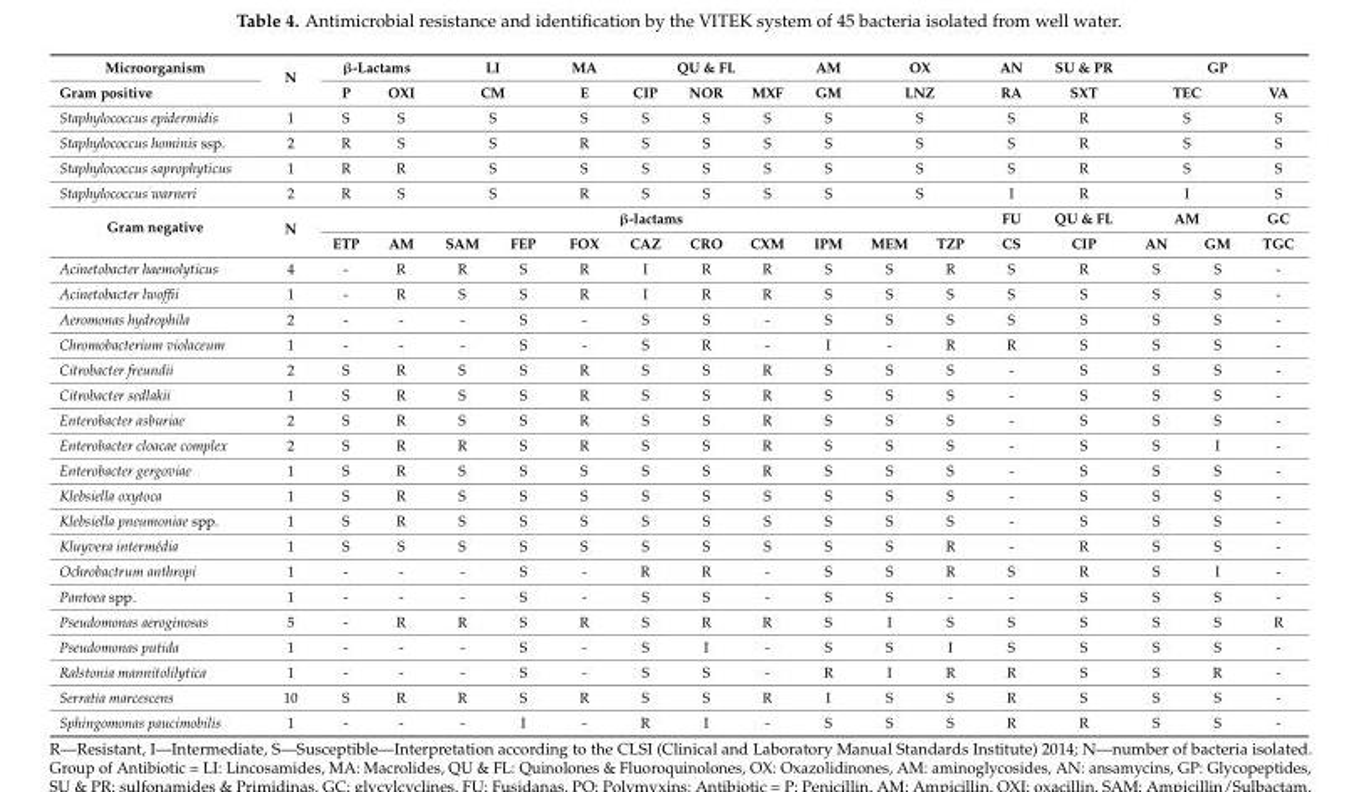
<table><tbody><tr><td>Microorganism</td><td rowspan="2">N</td><td colspan="2">β-Lactams</td><td colspan="2">LI</td><td>MA</td><td colspan="3">QU &amp; FL</td><td>AM</td><td colspan="2">OX</td><td>AN</td><td>SU &amp; PR</td><td colspan="3">GP</td></tr><tr><td>Gram positive</td><td>P</td><td>OXI</td><td colspan="2">CM</td><td>E</td><td>CIP</td><td>NOR</td><td>MXF</td><td>GM</td><td colspan="2">LNZ</td><td>RA</td><td>SXT</td><td colspan="2">TEC</td><td>VA</td></tr><tr><td>Staphylococcus epidermidis</td><td>1</td><td>S</td><td>S</td><td colspan="2">S</td><td>S</td><td>S</td><td>S</td><td>S</td><td>S</td><td colspan="2">S</td><td>S</td><td>R</td><td colspan="2">S</td><td>S</td></tr><tr><td>Staphylococcus hominis ssp.</td><td>2</td><td>R</td><td>S</td><td colspan="2">S</td><td>R</td><td>S</td><td>S</td><td>S</td><td>S</td><td colspan="2">S</td><td>S</td><td>R</td><td colspan="2">S</td><td>S</td></tr><tr><td>Staphylococcus saprophyticus</td><td>1</td><td>R</td><td>R</td><td colspan="2">S</td><td>S</td><td>S</td><td>S</td><td>S</td><td>S</td><td colspan="2">S</td><td>S</td><td>R</td><td colspan="2">S</td><td>S</td></tr><tr><td>Staphylococcus warneri</td><td>2</td><td>R</td><td>S</td><td colspan="2">S</td><td>R</td><td>S</td><td>S</td><td>S</td><td>S</td><td colspan="2">S</td><td>I</td><td>R</td><td colspan="2">I</td><td>S</td></tr><tr><td rowspan="2">Gram negative</td><td rowspan="2">N</td><td colspan="11">β-lactams</td><td>FU</td><td>QU &amp; FL</td><td colspan="2">AM</td><td>GC</td></tr><tr><td>ETP</td><td>AM</td><td>SAM</td><td>FEP</td><td>FOX</td><td>CAZ</td><td>CRO</td><td>CXM</td><td>IPM</td><td>MEM</td><td>TZP</td><td>CS</td><td>CIP</td><td>AN</td><td>GM</td><td>TGC</td></tr><tr><td>Acinetobacter haemolyticus</td><td>4</td><td>-</td><td>R</td><td>R</td><td>S</td><td>R</td><td>I</td><td>R</td><td>R</td><td>S</td><td>S</td><td>R</td><td>S</td><td>R</td><td>S</td><td>S</td><td>-</td></tr><tr><td>Acinetobacter lwoffii</td><td>1</td><td>-</td><td>R</td><td>S</td><td>S</td><td>R</td><td>I</td><td>R</td><td>R</td><td>S</td><td>S</td><td>S</td><td>S</td><td>S</td><td>S</td><td>S</td><td>-</td></tr><tr><td>Aeromonas hydrophila</td><td>2</td><td>-</td><td>-</td><td>-</td><td>S</td><td>-</td><td>S</td><td>S</td><td>-</td><td>S</td><td>S</td><td>S</td><td>S</td><td>S</td><td>S</td><td>S</td><td>-</td></tr><tr><td>Chromobacterium violaceum</td><td>1</td><td>-</td><td>-</td><td>-</td><td>S</td><td>-</td><td>S</td><td>R</td><td>-</td><td>I</td><td>-</td><td>R</td><td>R</td><td>S</td><td>S</td><td>S</td><td>-</td></tr><tr><td>Citrobacter freundii</td><td>2</td><td>S</td><td>R</td><td>S</td><td>S</td><td>R</td><td>S</td><td>S</td><td>R</td><td>S</td><td>S</td><td>S</td><td>-</td><td>S</td><td>S</td><td>S</td><td>-</td></tr><tr><td>Citrobacter sedlakii</td><td>1</td><td>S</td><td>R</td><td>S</td><td>S</td><td>R</td><td>S</td><td>S</td><td>R</td><td>S</td><td>S</td><td>S</td><td>-</td><td>S</td><td>S</td><td>S</td><td>-</td></tr><tr><td>Enterobacter asburiae</td><td>2</td><td>S</td><td>R</td><td>S</td><td>S</td><td>R</td><td>S</td><td>S</td><td>R</td><td>S</td><td>S</td><td>S</td><td>-</td><td>S</td><td>S</td><td>S</td><td>-</td></tr><tr><td>Enterobacter cloacae complex</td><td>2</td><td>S</td><td>R</td><td>R</td><td>S</td><td>R</td><td>S</td><td>S</td><td>R</td><td>S</td><td>S</td><td>S</td><td>-</td><td>S</td><td>S</td><td>I</td><td>-</td></tr><tr><td>Enterobacter gergoviae</td><td>1</td><td>S</td><td>R</td><td>S</td><td>S</td><td>S</td><td>S</td><td>S</td><td>R</td><td>S</td><td>S</td><td>S</td><td>-</td><td>S</td><td>S</td><td>S</td><td>-</td></tr><tr><td>Klebsiella oxytoca</td><td>1</td><td>S</td><td>R</td><td>S</td><td>S</td><td>S</td><td>S</td><td>S</td><td>S</td><td>S</td><td>S</td><td>S</td><td>-</td><td>S</td><td>S</td><td>S</td><td>-</td></tr><tr><td>Klebsiella pneumoniae spp.</td><td>1</td><td>S</td><td>R</td><td>S</td><td>S</td><td>S</td><td>S</td><td>S</td><td>S</td><td>S</td><td>S</td><td>S</td><td>-</td><td>S</td><td>S</td><td>S</td><td>-</td></tr><tr><td>Kluyvera intermédia</td><td>1</td><td>S</td><td>S</td><td>S</td><td>S</td><td>S</td><td>S</td><td>S</td><td>S</td><td>S</td><td>S</td><td>R</td><td>-</td><td>R</td><td>S</td><td>S</td><td>-</td></tr><tr><td>Ochrobactrum anthropi</td><td>1</td><td>-</td><td>-</td><td>-</td><td>S</td><td>-</td><td>R</td><td>R</td><td>-</td><td>S</td><td>S</td><td>R</td><td>S</td><td>R</td><td>S</td><td>I</td><td>-</td></tr><tr><td>Pantoea spp.</td><td>1</td><td>-</td><td>-</td><td>-</td><td>S</td><td>-</td><td>S</td><td>S</td><td>-</td><td>S</td><td>S</td><td>-</td><td>-</td><td>S</td><td>S</td><td>S</td><td>-</td></tr><tr><td>Pseudomonas aeroginosas</td><td>5</td><td>-</td><td>R</td><td>R</td><td>S</td><td>R</td><td>S</td><td>R</td><td>R</td><td>S</td><td>I</td><td>S</td><td>S</td><td>S</td><td>S</td><td>S</td><td>R</td></tr><tr><td>Pseudomonas putida</td><td>1</td><td>-</td><td>-</td><td>-</td><td>S</td><td>-</td><td>S</td><td>I</td><td>-</td><td>S</td><td>S</td><td>I</td><td>S</td><td>S</td><td>S</td><td>S</td><td>-</td></tr><tr><td>Ralstonia mannitolilytica</td><td>1</td><td>-</td><td>-</td><td>-</td><td>S</td><td>-</td><td>S</td><td>S</td><td>-</td><td>R</td><td>I</td><td>R</td><td>R</td><td>S</td><td>S</td><td>R</td><td>-</td></tr><tr><td>Serratia marcescens</td><td>10</td><td>S</td><td>R</td><td>R</td><td>S</td><td>R</td><td>S</td><td>S</td><td>R</td><td>I</td><td>S</td><td>S</td><td>R</td><td>S</td><td>S</td><td>S</td><td>-</td></tr><tr><td>Sphingomonas paucimobilis</td><td>1</td><td>-</td><td>-</td><td>-</td><td>I</td><td>-</td><td>R</td><td>I</td><td>-</td><td>S</td><td>S</td><td>S</td><td>R</td><td>R</td><td>S</td><td>S</td><td>-</td></tr></tbody></table>